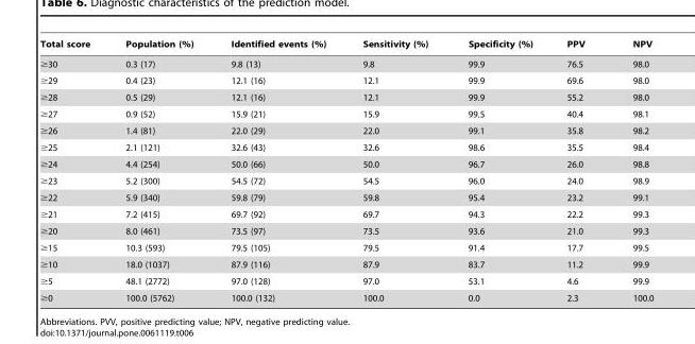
<table><thead><tr><td>Total score</td><td>Population (%)</td><td>Identified events (%)</td><td>Sensitivity (%)</td><td>Specificity (%)</td><td>PPV</td><td>NPV</td></tr></thead><tbody><tr><td>≥30</td><td>0.3 (17)</td><td>9.8 (13)</td><td>9.8</td><td>99.9</td><td>76.5</td><td>98.0</td></tr><tr><td>≥29</td><td>0.4 (23)</td><td>12.1 (16)</td><td>12.1</td><td>99.9</td><td>69.6</td><td>98.0</td></tr><tr><td>≥28</td><td>0.5 (29)</td><td>12.1 (16)</td><td>12.1</td><td>99.9</td><td>55.2</td><td>98.0</td></tr><tr><td>≥27</td><td>0.9 (52)</td><td>15.9 (21)</td><td>15.9</td><td>99.5</td><td>40.4</td><td>98.1</td></tr><tr><td>≥26</td><td>1.4 (81)</td><td>22.0 (29)</td><td>22.0</td><td>99.1</td><td>35.8</td><td>98.2</td></tr><tr><td>≥25</td><td>2.1 (121)</td><td>32.6 (43)</td><td>32.6</td><td>98.6</td><td>35.5</td><td>98.4</td></tr><tr><td>≥24</td><td>4.4 (254)</td><td>50.0 (66)</td><td>50.0</td><td>96.7</td><td>26.0</td><td>98.8</td></tr><tr><td>≥23</td><td>5.2 (300)</td><td>54.5 (72)</td><td>54.5</td><td>96.0</td><td>24.0</td><td>98.9</td></tr><tr><td>≥22</td><td>5.9 (340)</td><td>59.8 (79)</td><td>59.8</td><td>95.4</td><td>23.2</td><td>99.1</td></tr><tr><td>≥21</td><td>7.2 (415)</td><td>69.7 (92)</td><td>69.7</td><td>94.3</td><td>22.2</td><td>99.3</td></tr><tr><td>≥20</td><td>8.0 (461)</td><td>73.5 (97)</td><td>73.5</td><td>93.6</td><td>21.0</td><td>99.3</td></tr><tr><td>≥15</td><td>10.3 (593)</td><td>79.5 (105)</td><td>79.5</td><td>91.4</td><td>17.7</td><td>99.5</td></tr><tr><td>≥10</td><td>18.0 (1037)</td><td>87.9 (116)</td><td>87.9</td><td>83.7</td><td>11.2</td><td>99.9</td></tr><tr><td>≥5</td><td>48.1 (2772)</td><td>97.0 (128)</td><td>97.0</td><td>53.1</td><td>4.6</td><td>99.9</td></tr><tr><td>≥0</td><td>100.0 (5762)</td><td>100.0 (132)</td><td>100.0</td><td>0.0</td><td>2.3</td><td>100.0</td></tr></tbody></table>